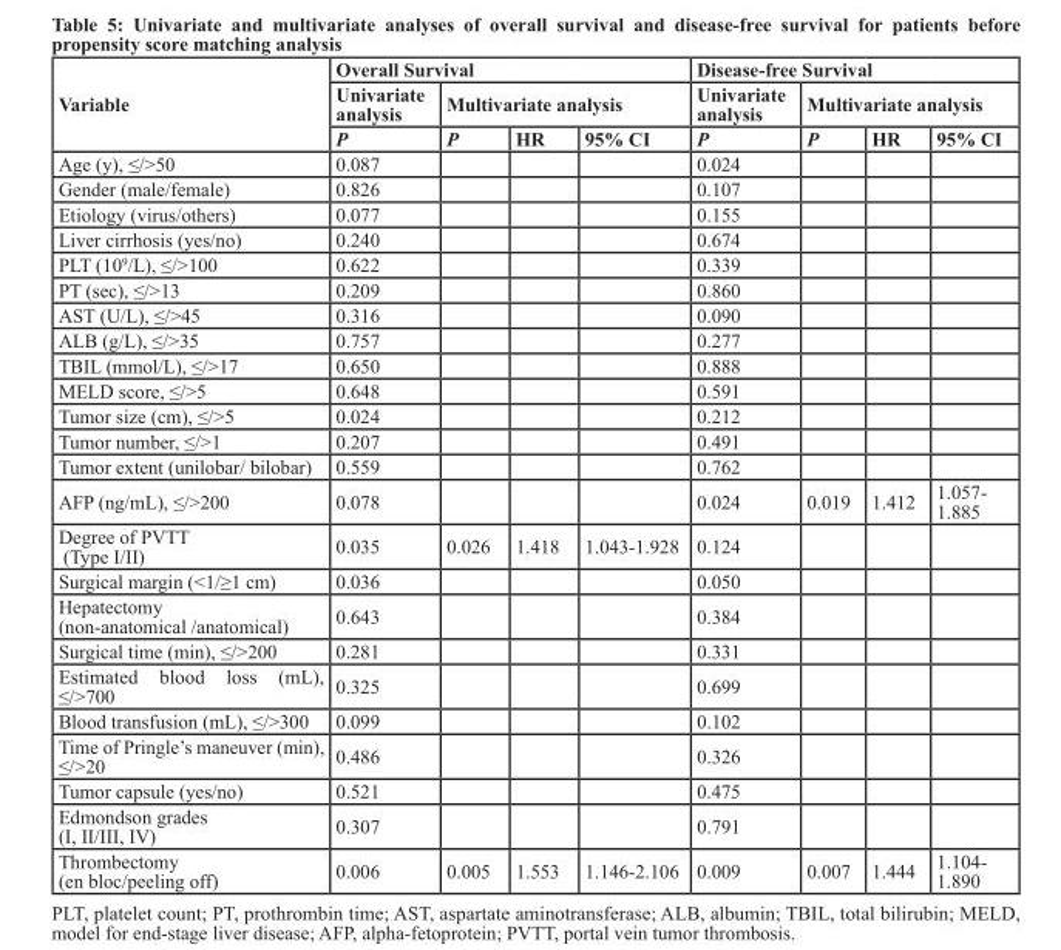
<table><thead><tr><td rowspan="3">Variable</td><td colspan="4">Overall Survival</td><td colspan="4">Disease-free Survival</td></tr><tr><td rowspan="2">Univariate analysis P</td><td colspan="3">Multivariate analysis</td><td rowspan="2">Univariate analysis P</td><td colspan="3">Multivariate analysis</td></tr><tr><td>P</td><td>HR</td><td>95% CI</td><td>P</td><td>HR</td><td>95% CI</td></tr></thead><tbody><tr><td>Age (y), ≤/&gt;50</td><td>0.087</td><td></td><td></td><td></td><td>0.024</td><td></td><td></td><td></td></tr><tr><td>Gender (male/female)</td><td>0.826</td><td></td><td></td><td></td><td>0.107</td><td></td><td></td><td></td></tr><tr><td>Etiology (virus/others)</td><td>0.077</td><td></td><td></td><td></td><td>0.155</td><td></td><td></td><td></td></tr><tr><td>Liver cirrhosis (yes/no)</td><td>0.240</td><td></td><td></td><td></td><td>0.674</td><td></td><td></td><td></td></tr><tr><td>PLT (10<sup>9</sup>/L), ≤/&gt;100</td><td>0.622</td><td></td><td></td><td></td><td>0.339</td><td></td><td></td><td></td></tr><tr><td>PT (sec), ≤/&gt;13</td><td>0.209</td><td></td><td></td><td></td><td>0.860</td><td></td><td></td><td></td></tr><tr><td>AST (U/L), ≤/&gt;45</td><td>0.316</td><td></td><td></td><td></td><td>0.090</td><td></td><td></td><td></td></tr><tr><td>ALB (g/L), ≤/&gt;35</td><td>0.757</td><td></td><td></td><td></td><td>0.277</td><td></td><td></td><td></td></tr><tr><td>TBIL (mmol/L), ≤/&gt;17</td><td>0.650</td><td></td><td></td><td></td><td>0.888</td><td></td><td></td><td></td></tr><tr><td>MELD score, ≤/&gt;5</td><td>0.648</td><td></td><td></td><td></td><td>0.591</td><td></td><td></td><td></td></tr><tr><td>Tumor size (cm), ≤/&gt;5</td><td>0.024</td><td></td><td></td><td></td><td>0.212</td><td></td><td></td><td></td></tr><tr><td>Tumor number, ≤/&gt;1</td><td>0.207</td><td></td><td></td><td></td><td>0.491</td><td></td><td></td><td></td></tr><tr><td>Tumor extent (unilobar/ bilobar)</td><td>0.559</td><td></td><td></td><td></td><td>0.762</td><td></td><td></td><td></td></tr><tr><td>AFP (ng/mL), ≤/&gt;200</td><td>0.078</td><td></td><td></td><td></td><td>0.024</td><td>0.019</td><td>1.412</td><td>1.057- 1.885</td></tr><tr><td>Degree of PVTT (Type I/II)</td><td>0.035</td><td>0.026</td><td>1.418</td><td>1.043-1.928</td><td>0.124</td><td></td><td></td><td></td></tr><tr><td>Surgical margin (&lt;1/≥1 cm)</td><td>0.036</td><td></td><td></td><td></td><td>0.050</td><td></td><td></td><td></td></tr><tr><td>Hepatectomy (non-anatomical /anatomical)</td><td>0.643</td><td></td><td></td><td></td><td>0.384</td><td></td><td></td><td></td></tr><tr><td>Surgical time (min), ≤/&gt;200</td><td>0.281</td><td></td><td></td><td></td><td>0.331</td><td></td><td></td><td></td></tr><tr><td>Estimated blood loss (mL), ≤/&gt;700</td><td>0.325</td><td></td><td></td><td></td><td>0.699</td><td></td><td></td><td></td></tr><tr><td>Blood transfusion (mL), ≤/&gt;300</td><td>0.099</td><td></td><td></td><td></td><td>0.102</td><td></td><td></td><td></td></tr><tr><td>Time of Pringle’s maneuver (min), ≤/&gt;20</td><td>0.486</td><td></td><td></td><td></td><td>0.326</td><td></td><td></td><td></td></tr><tr><td>Tumor capsule (yes/no)</td><td>0.521</td><td></td><td></td><td></td><td>0.475</td><td></td><td></td><td></td></tr><tr><td>Edmondson grades (I, II/III, IV)</td><td>0.307</td><td></td><td></td><td></td><td>0.791</td><td></td><td></td><td></td></tr><tr><td>Thrombectomy (en bloc/peeling off)</td><td>0.006</td><td>0.005</td><td>1.553</td><td>1.146-2.106</td><td>0.009</td><td>0.007</td><td>1.444</td><td>1.104- 1.890</td></tr></tbody></table>